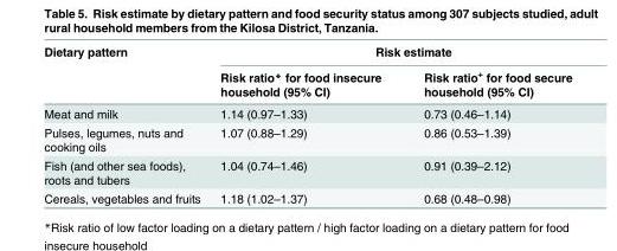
<table><thead><tr><td rowspan="2">Dietary pattern</td><td colspan="2">Risk estimate</td></tr><tr><td>Risk ratio* for food insecure household (95% CI)</td><td>Risk ratio<sup>+</sup> for food secure household (95% CI)</td></tr></thead><tbody><tr><td>Meat and milk</td><td>1.14 (0.97–1.33)</td><td>0.73 (0.46–1.14)</td></tr><tr><td>Pulses, legumes, nuts and cooking oils</td><td>1.07 (0.88–1.29)</td><td>0.86 (0.53–1.39)</td></tr><tr><td>Fish (and other sea foods), roots and tubers</td><td>1.04 (0.74–1.46)</td><td>0.91 (0.39–2.12)</td></tr><tr><td>Cereals, vegetables and fruits</td><td>1.18 (1.02–1.37)</td><td>0.68 (0.48–0.98)</td></tr></tbody></table>